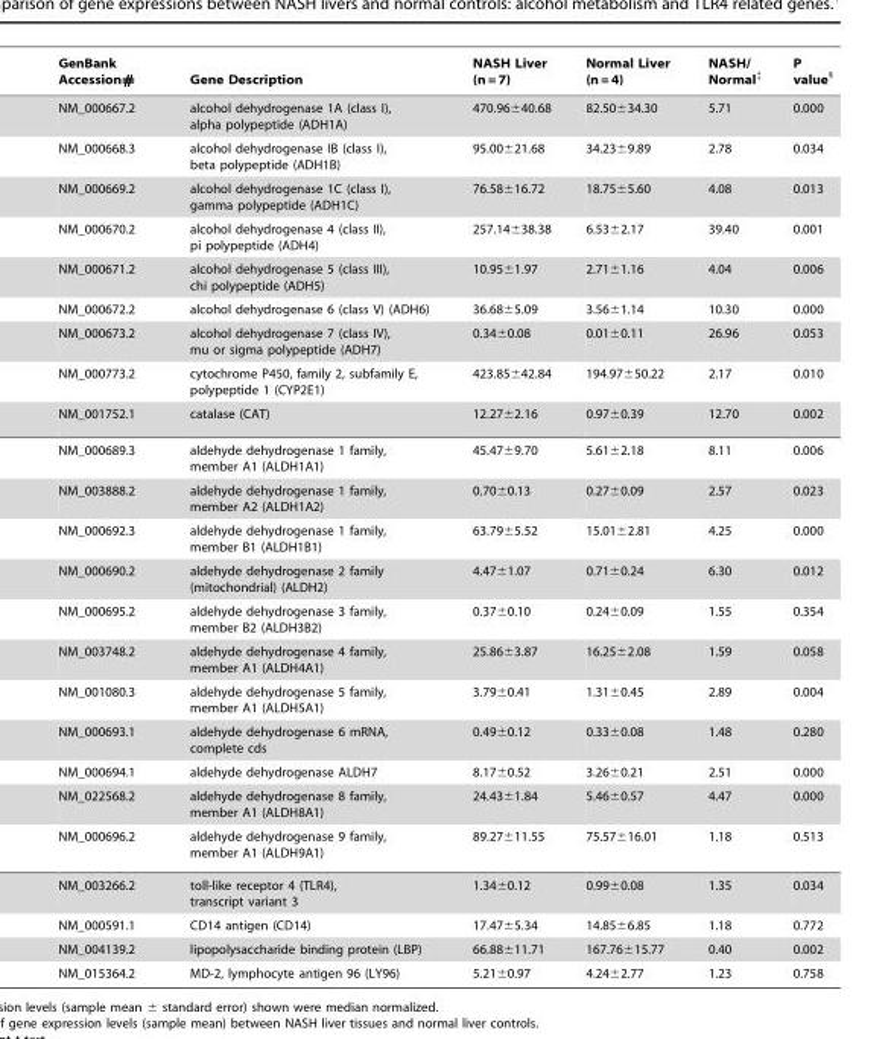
<table><thead><tr><td>GenBank Accession#</td><td>Gene Description</td><td>NASH Liver (n = 7)</td><td>Normal Liver (n = 4)</td><td>NASH/ Normal‡</td><td>P value§</td></tr></thead><tbody><tr><td>NM_000667.2</td><td>alcohol dehydrogenase 1A (class I), alpha polypeptide (ADH1A)</td><td>470.96±40.68</td><td>82.50±34.30</td><td>5.71</td><td>0.000</td></tr><tr><td>NM_000668.3</td><td>alcohol dehydrogenase IB (class I), beta polypeptide (ADH1B)</td><td>95.00±21.68</td><td>34.23±9.89</td><td>2.78</td><td>0.034</td></tr><tr><td>NM_000669.2</td><td>alcohol dehydrogenase 1C (class I), gamma polypeptide (ADH1C)</td><td>76.58±16.72</td><td>18.75±5.60</td><td>4.08</td><td>0.013</td></tr><tr><td>NM_000670.2</td><td>alcohol dehydrogenase 4 (class II), pi polypeptide (ADH4)</td><td>257.14±38.38</td><td>6.53±2.17</td><td>39.40</td><td>0.001</td></tr><tr><td>NM_000671.2</td><td>alcohol dehydrogenase 5 (class III), chi polypeptide (ADH5)</td><td>10.95±1.97</td><td>2.71±1.16</td><td>4.04</td><td>0.006</td></tr><tr><td>NM_000672.2</td><td>alcohol dehydrogenase 6 (class V) (ADH6)</td><td>36.68±5.09</td><td>3.56±1.14</td><td>10.30</td><td>0.000</td></tr><tr><td>NM_000673.2</td><td>alcohol dehydrogenase 7 (class IV), mu or sigma polypeptide (ADH7)</td><td>0.34±0.08</td><td>0.01±0.11</td><td>26.96</td><td>0.053</td></tr><tr><td>NM_000773.2</td><td>cytochrome P450, family 2, subfamily E, polypeptide 1 (CYP2E1)</td><td>423.85±42.84</td><td>194.97±50.22</td><td>2.17</td><td>0.010</td></tr><tr><td>NM_001752.1</td><td>catalase (CAT)</td><td>12.27±2.16</td><td>0.97±0.39</td><td>12.70</td><td>0.002</td></tr><tr><td>NM_000689.3</td><td>aldehyde dehydrogenase 1 family, member A1 (ALDH1A1)</td><td>45.47±9.70</td><td>5.61±2.18</td><td>8.11</td><td>0.006</td></tr><tr><td>NM_003888.2</td><td>aldehyde dehydrogenase 1 family, member A2 (ALDH1A2)</td><td>0.70±0.13</td><td>0.27±0.09</td><td>2.57</td><td>0.023</td></tr><tr><td>NM_000692.3</td><td>aldehyde dehydrogenase 1 family, member B1 (ALDH1B1)</td><td>63.79±5.52</td><td>15.01±2.81</td><td>4.25</td><td>0.000</td></tr><tr><td>NM_000690.2</td><td>aldehyde dehydrogenase 2 family (mitochondrial) (ALDH2)</td><td>4.47±1.07</td><td>0.71±0.24</td><td>6.30</td><td>0.012</td></tr><tr><td>NM_000695.2</td><td>aldehyde dehydrogenase 3 family, member B2 (ALDH3B2)</td><td>0.37±0.10</td><td>0.24±0.09</td><td>1.55</td><td>0.354</td></tr><tr><td>NM_003748.2</td><td>aldehyde dehydrogenase 4 family, member A1 (ALDH4A1)</td><td>25.86±3.87</td><td>16.25±2.08</td><td>1.59</td><td>0.058</td></tr><tr><td>NM_001080.3</td><td>aldehyde dehydrogenase 5 family, member A1 (ALDH5A1)</td><td>3.79±0.41</td><td>1.31±0.45</td><td>2.89</td><td>0.004</td></tr><tr><td>NM_000693.1</td><td>aldehyde dehydrogenase 6 mRNA, complete cds</td><td>0.49±0.12</td><td>0.33±0.08</td><td>1.48</td><td>0.280</td></tr><tr><td>NM_000694.1</td><td>aldehyde dehydrogenase ALDH7</td><td>8.17±0.52</td><td>3.26±0.21</td><td>2.51</td><td>0.000</td></tr><tr><td>NM_022568.2</td><td>aldehyde dehydrogenase 8 family, member A1 (ALDH8A1)</td><td>24.43±1.84</td><td>5.46±0.57</td><td>4.47</td><td>0.000</td></tr><tr><td>NM_000696.2</td><td>aldehyde dehydrogenase 9 family, member A1 (ALDH9A1)</td><td>89.27±11.55</td><td>75.57±16.01</td><td>1.18</td><td>0.513</td></tr><tr><td>NM_003266.2</td><td>toll-like receptor 4 (TLR4), transcript variant 3</td><td>1.34±0.12</td><td>0.99±0.08</td><td>1.35</td><td>0.034</td></tr><tr><td>NM_000591.1</td><td>CD14 antigen (CD14)</td><td>17.47±5.34</td><td>14.85±6.85</td><td>1.18</td><td>0.772</td></tr><tr><td>NM_004139.2</td><td>lipopolysaccharide binding protein (LBP)</td><td>66.88±11.71</td><td>167.76±15.77</td><td>0.40</td><td>0.002</td></tr><tr><td>NM_015364.2</td><td>MD-2, lymphocyte antigen 96 (LY96)</td><td>5.21±0.97</td><td>4.24±2.77</td><td>1.23</td><td>0.758</td></tr></tbody></table>